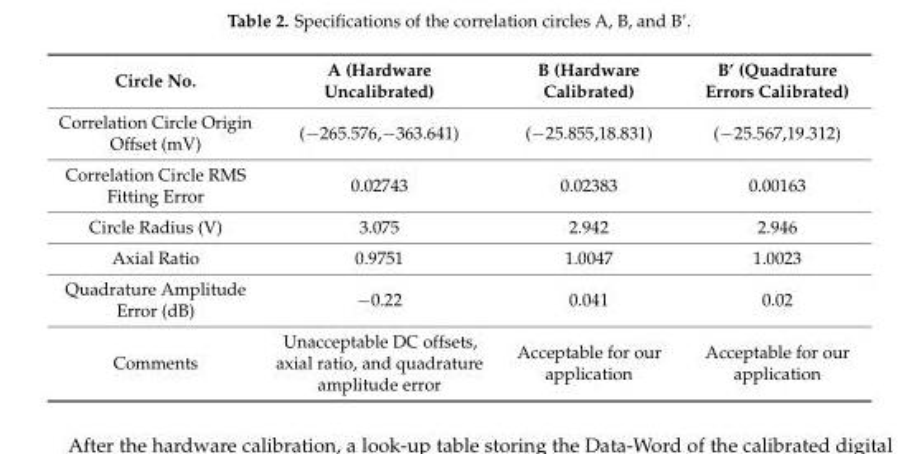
<table><thead><tr><td>Circle No.</td><td>A (Hardware Uncalibrated)</td><td>B (Hardware Calibrated)</td><td>B’ (Quadrature Errors Calibrated)</td></tr></thead><tbody><tr><td>Correlation Circle Origin Offset (mV)</td><td>(−265.576,−363.641)</td><td>(−25.855,18.831)</td><td>(−25.567,19.312)</td></tr><tr><td>Correlation Circle RMS Fitting Error</td><td>0.02743</td><td>0.02383</td><td>0.00163</td></tr><tr><td>Circle Radius (V)</td><td>3.075</td><td>2.942</td><td>2.946</td></tr><tr><td>Axial Ratio</td><td>0.9751</td><td>1.0047</td><td>1.0023</td></tr><tr><td>Quadrature Amplitude Error (dB)</td><td>−0.22</td><td>0.041</td><td>0.02</td></tr><tr><td>Comments</td><td>Unacceptable DC offsets, axial ratio, and quadrature amplitude error</td><td>Acceptable for our application</td><td>Acceptable for our application</td></tr></tbody></table>